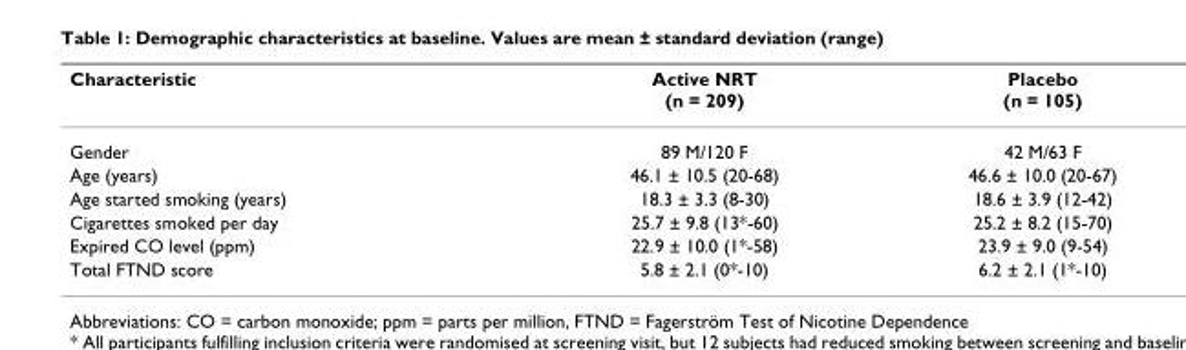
<table><thead><tr><td>Characteristic</td><td>Active NRT (n = 209)</td><td>Placebo (n = 105)</td></tr></thead><tbody><tr><td>Gender</td><td>89 M/120 F</td><td>42 M/63 F</td></tr><tr><td>Age (years)</td><td>46.1 ± 10.5 (20-68)</td><td>46.6 ± 10.0 (20-67)</td></tr><tr><td>Age started smoking (years)</td><td>18.3 ± 3.3 (8-30)</td><td>18.6 ± 3.9 (12-42)</td></tr><tr><td>Cigarettes smoked per day</td><td>25.7 ± 9.8 (13*-60)</td><td>25.2 ± 8.2 (15-70)</td></tr><tr><td>Expired CO level (ppm)</td><td>22.9 ± 10.0 (1*-58)</td><td>23.9 ± 9.0 (9-54)</td></tr><tr><td>Total FTND score</td><td>5.8 ± 2.1 (0*-10)</td><td>6.2 ± 2.1 (1*-10)</td></tr></tbody></table>